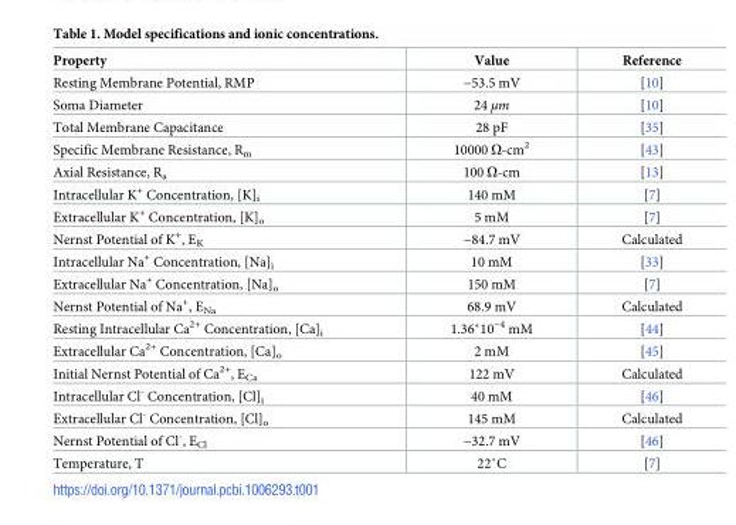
<table><thead><tr><td>Property</td><td>Value</td><td>Reference</td></tr></thead><tbody><tr><td>Resting Membrane Potential, RMP</td><td>−53.5 mV</td><td>[10]</td></tr><tr><td>Soma Diameter</td><td>24 μm</td><td>[10]</td></tr><tr><td>Total Membrane Capacitance</td><td>28 pF</td><td>[35]</td></tr><tr><td>Specific Membrane Resistance, R<sub>m</sub></td><td>10000 Ω-cm<sup>2</sup></td><td>[43]</td></tr><tr><td>Axial Resistance, R<sub>a</sub></td><td>100 Ω-cm</td><td>[13]</td></tr><tr><td>Intracellular K<sup>+</sup> Concentration, [K]<sub>i</sub></td><td>140 mM</td><td>[7]</td></tr><tr><td>Extracellular K<sup>+</sup> Concentration, [K]<sub>o</sub></td><td>5 mM</td><td>[7]</td></tr><tr><td>Nernst Potential of K<sup>+</sup>, E<sub>K</sub></td><td>−84.7 mV</td><td>Calculated</td></tr><tr><td>Intracellular Na<sup>+</sup> Concentration, [Na]<sub>i</sub></td><td>10 mM</td><td>[33]</td></tr><tr><td>Extracellular Na<sup>+</sup> Concentration, [Na]<sub>o</sub></td><td>150 mM</td><td>[7]</td></tr><tr><td>Nernst Potential of Na<sup>+</sup>, E<sub>Na</sub></td><td>68.9 mV</td><td>Calculated</td></tr><tr><td>Resting Intracellular Ca<sup>2+</sup> Concentration, [Ca]<sub>i</sub></td><td>1.36*10<sup>−4</sup> mM</td><td>[44]</td></tr><tr><td>Extracellular Ca<sup>2+</sup> Concentration, [Ca]<sub>o</sub></td><td>2 mM</td><td>[45]</td></tr><tr><td>Initial Nernst Potential of Ca<sup>2+</sup>, E<sub>Ca</sub></td><td>122 mV</td><td>Calculated</td></tr><tr><td>Intracellular Cl<sup>-</sup> Concentration, [Cl]<sub>i</sub></td><td>40 mM</td><td>[46]</td></tr><tr><td>Extracellular Cl<sup>-</sup> Concentration, [Cl]<sub>o</sub></td><td>145 mM</td><td>Calculated</td></tr><tr><td>Nernst Potential of Cl<sup>-</sup>, E<sub>Cl</sub></td><td>−32.7 mV</td><td>[46]</td></tr><tr><td>Temperature, T</td><td>22˚C</td><td>[7]</td></tr></tbody></table>